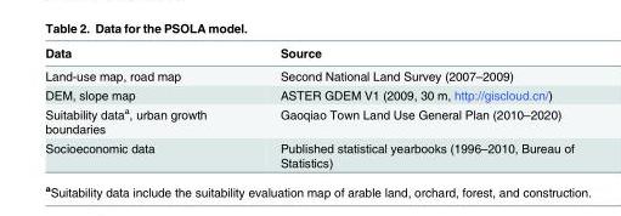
<table><thead><tr><td>Data</td><td>Source</td></tr></thead><tbody><tr><td>Land-use map, road map</td><td>Second National Land Survey (2007–2009)</td></tr><tr><td>DEM, slope map</td><td>ASTER GDEM V1 (2009, 30 m, http://giscloud.cn/)</td></tr><tr><td>Suitability data<sup>a</sup>, urban growth boundaries</td><td>Gaoqiao Town Land Use General Plan (2010–2020)</td></tr><tr><td>Socioeconomic data</td><td>Published statistical yearbooks (1996–2010, Bureau of Statistics)</td></tr></tbody></table>